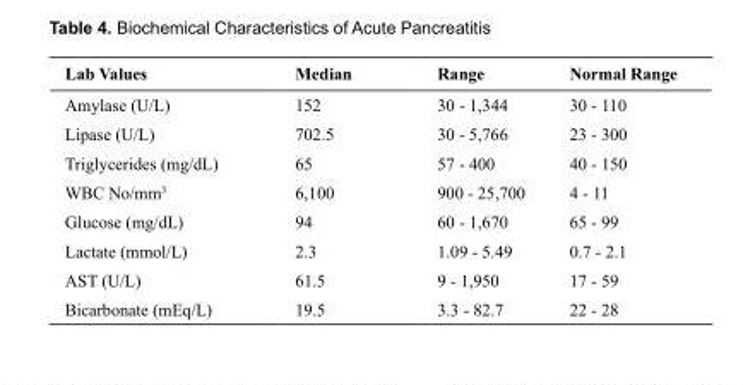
<table><thead><tr><td>Lab Values</td><td>Median</td><td>Range</td><td>Normal Range</td></tr></thead><tbody><tr><td>Amylase (U/L)</td><td>152</td><td>30 - 1,344</td><td>30 - 110</td></tr><tr><td>Lipase (U/L)</td><td>702.5</td><td>30 - 5,766</td><td>23 - 300</td></tr><tr><td>Triglycerides (mg/dL)</td><td>65</td><td>57 - 400</td><td>40 - 150</td></tr><tr><td>WBC No/mm<sup>3</sup></td><td>6,100</td><td>900 - 25,700</td><td>4 - 11</td></tr><tr><td>Glucose (mg/dL)</td><td>94</td><td>60 - 1,670</td><td>65 - 99</td></tr><tr><td>Lactate (mmol/L)</td><td>2.3</td><td>1.09 - 5.49</td><td>0.7 - 2.1</td></tr><tr><td>AST (U/L)</td><td>61.5</td><td>9 - 1,950</td><td>17 - 59</td></tr><tr><td>Bicarbonate (mEq/L)</td><td>19.5</td><td>3.3 - 82.7</td><td>22 - 28</td></tr></tbody></table>